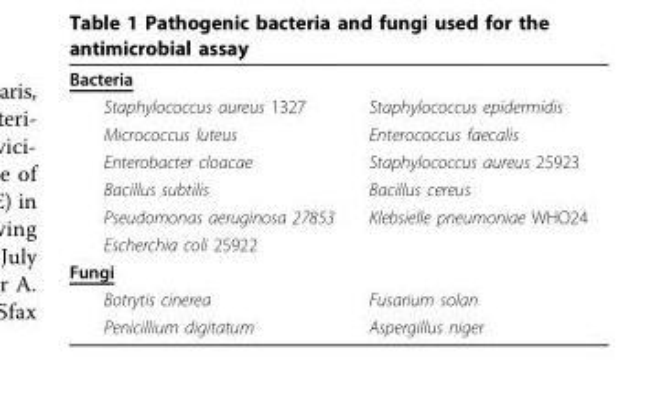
<table><tbody><tr><td colspan="2">Bacteria</td></tr><tr><td>Staphylococcus aureus 1327</td><td>Staphylococcus epidermidis</td></tr><tr><td>Micrococcus luteus</td><td>Enterococcus faecalis</td></tr><tr><td>Enterobacter cloacae</td><td>Staphylococcus aureus 25923</td></tr><tr><td>Bacillus subtilis</td><td>Bacillus cereus</td></tr><tr><td>Pseudomonas aeruginosa 27853</td><td>Klebsielle pneumoniae WHO24</td></tr><tr><td colspan="2">Escherchia coli 25922</td></tr><tr><td colspan="2">Fungi</td></tr><tr><td>Botrytis cinerea</td><td>Fusarium solan</td></tr><tr><td>Penicillium digitatum</td><td>Aspergillus niger</td></tr></tbody></table>